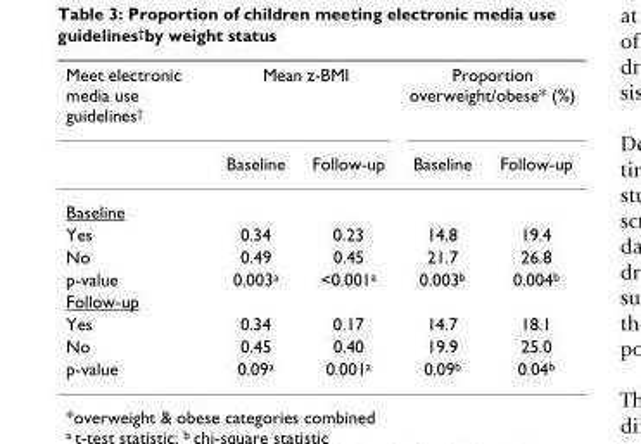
<table><thead><tr><td rowspan="2">Meet electronic media use guidelines<sup>†</sup></td><td colspan="2">Mean z-BMI</td><td colspan="2">Proportion overweight/obese* (%)</td></tr><tr><td>Baseline</td><td>Follow-up</td><td>Baseline</td><td>Follow-up</td></tr></thead><tbody><tr><td colspan="5">Baseline</td></tr><tr><td>Yes</td><td>0.34</td><td>0.23</td><td>14.8</td><td>19.4</td></tr><tr><td>No</td><td>0.49</td><td>0.45</td><td>21.7</td><td>26.8</td></tr><tr><td>p-value</td><td>0.003<sup>a</sup></td><td>&lt;0.001<sup>a</sup></td><td>0.003<sup>b</sup></td><td>0.004<sup>b</sup></td></tr><tr><td colspan="5">Follow-up</td></tr><tr><td>Yes</td><td>0.34</td><td>0.17</td><td>14.7</td><td>18.1</td></tr><tr><td>No</td><td>0.45</td><td>0.40</td><td>19.9</td><td>25.0</td></tr><tr><td>p-value</td><td>0.09<sup>a</sup></td><td>0.001<sup>a</sup></td><td>0.09<sup>b</sup></td><td>0.04<sup>b</sup></td></tr></tbody></table>